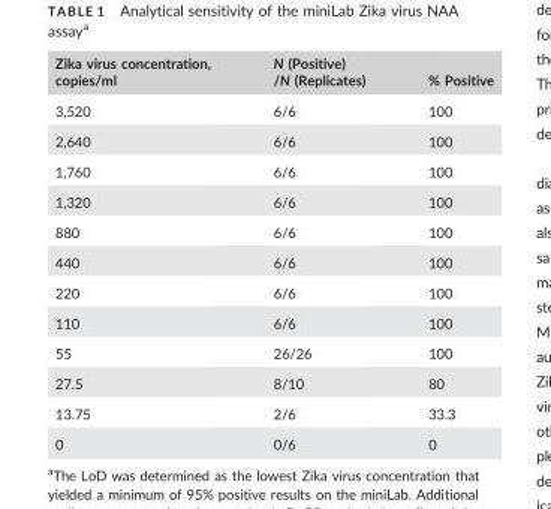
<table><thead><tr><td>Zika virus concentration, copies/ml</td><td>N (Positive) /N (Replicates)</td><td>% Positive</td></tr></thead><tbody><tr><td>3,520</td><td>6/6</td><td>100</td></tr><tr><td>2,640</td><td>6/6</td><td>100</td></tr><tr><td>1,760</td><td>6/6</td><td>100</td></tr><tr><td>1,320</td><td>6/6</td><td>100</td></tr><tr><td>880</td><td>6/6</td><td>100</td></tr><tr><td>440</td><td>6/6</td><td>100</td></tr><tr><td>220</td><td>6/6</td><td>100</td></tr><tr><td>110</td><td>6/6</td><td>100</td></tr><tr><td>55</td><td>26/26</td><td>100</td></tr><tr><td>27.5</td><td>8/10</td><td>80</td></tr><tr><td>13.75</td><td>2/6</td><td>33.3</td></tr><tr><td>0</td><td>0/6</td><td>0</td></tr></tbody></table>